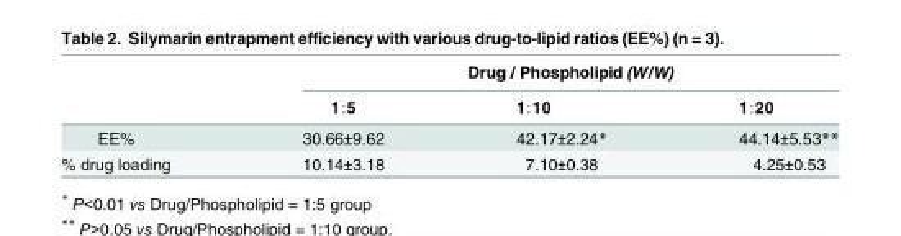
<table><thead><tr><td rowspan="2"></td><td colspan="3">Drug / Phospholipid (W/W)</td></tr><tr><td>1∶5</td><td>1∶10</td><td>1∶20</td></tr></thead><tbody><tr><td>EE%</td><td>30.66±9.62</td><td>42.17±2.24*</td><td>44.14±5.53**</td></tr><tr><td>% drug loading</td><td>10.14±3.18</td><td>7.10±0.38</td><td>4.25±0.53</td></tr></tbody></table>